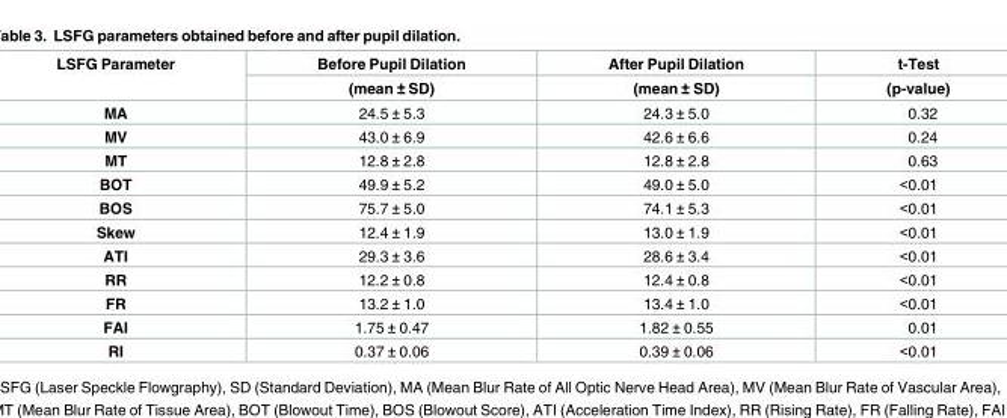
<table><thead><tr><td rowspan="2">LSFG Parameter</td><td rowspan="2">Before Pupil Dilation (mean ± SD)</td><td rowspan="2">After Pupil Dilation (mean ± SD)</td><td rowspan="2">t-Test (p-value)</td></tr><tr></tr></thead><tbody><tr><td>MA</td><td>24.5 ± 5.3</td><td>24.3 ± 5.0</td><td>0.32</td></tr><tr><td>MV</td><td>43.0 ± 6.9</td><td>42.6 ± 6.6</td><td>0.24</td></tr><tr><td>MT</td><td>12.8 ± 2.8</td><td>12.8 ± 2.8</td><td>0.63</td></tr><tr><td>BOT</td><td>49.9 ± 5.2</td><td>49.0 ± 5.0</td><td>&lt;0.01</td></tr><tr><td>BOS</td><td>75.7 ± 5.0</td><td>74.1 ± 5.3</td><td>&lt;0.01</td></tr><tr><td>Skew</td><td>12.4 ± 1.9</td><td>13.0 ± 1.9</td><td>&lt;0.01</td></tr><tr><td>ATI</td><td>29.3 ± 3.6</td><td>28.6 ± 3.4</td><td>&lt;0.01</td></tr><tr><td>RR</td><td>12.2 ± 0.8</td><td>12.4 ± 0.8</td><td>&lt;0.01</td></tr><tr><td>FR</td><td>13.2 ± 1.0</td><td>13.4 ± 1.0</td><td>&lt;0.01</td></tr><tr><td>FAI</td><td>1.75 ± 0.47</td><td>1.82 ± 0.55</td><td>0.01</td></tr><tr><td>RI</td><td>0.37 ± 0.06</td><td>0.39 ± 0.06</td><td>&lt;0.01</td></tr></tbody></table>